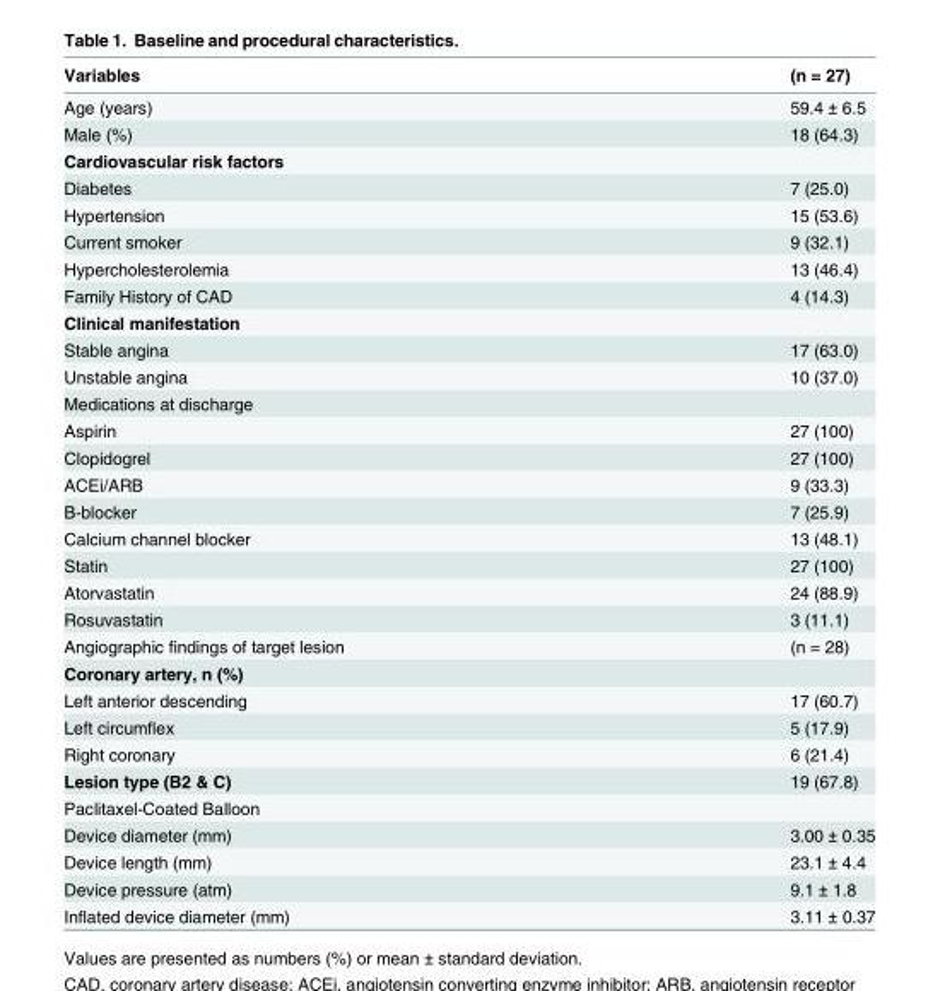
<table><thead><tr><td>Variables</td><td>(n = 27)</td></tr></thead><tbody><tr><td>Age (years)</td><td>59.4 ± 6.5</td></tr><tr><td>Male (%)</td><td>18 (64.3)</td></tr><tr><td colspan="2">Cardiovascular risk factors</td></tr><tr><td>Diabetes</td><td>7 (25.0)</td></tr><tr><td>Hypertension</td><td>15 (53.6)</td></tr><tr><td>Current smoker</td><td>9 (32.1)</td></tr><tr><td>Hypercholesterolemia</td><td>13 (46.4)</td></tr><tr><td>Family History of CAD</td><td>4 (14.3)</td></tr><tr><td colspan="2">Clinical manifestation</td></tr><tr><td>Stable angina</td><td>17 (63.0)</td></tr><tr><td>Unstable angina</td><td>10 (37.0)</td></tr><tr><td colspan="2">Medications at discharge</td></tr><tr><td>Aspirin</td><td>27 (100)</td></tr><tr><td>Clopidogrel</td><td>27 (100)</td></tr><tr><td>ACEi/ARB</td><td>9 (33.3)</td></tr><tr><td>B-blocker</td><td>7 (25.9)</td></tr><tr><td>Calcium channel blocker</td><td>13 (48.1)</td></tr><tr><td>Statin</td><td>27 (100)</td></tr><tr><td>Atorvastatin</td><td>24 (88.9)</td></tr><tr><td>Rosuvastatin</td><td>3 (11.1)</td></tr><tr><td>Angiographic findings of target lesion</td><td>(n = 28)</td></tr><tr><td colspan="2">Coronary artery, n (%)</td></tr><tr><td>Left anterior descending</td><td>17 (60.7)</td></tr><tr><td>Left circumflex</td><td>5 (17.9)</td></tr><tr><td>Right coronary</td><td>6 (21.4)</td></tr><tr><td>Lesion type (B2 &amp; C)</td><td>19 (67.8)</td></tr><tr><td colspan="2">Paclitaxel-Coated Balloon</td></tr><tr><td>Device diameter (mm)</td><td>3.00 ± 0.35</td></tr><tr><td>Device length (mm)</td><td>23.1 ± 4.4</td></tr><tr><td>Device pressure (atm)</td><td>9.1 ± 1.8</td></tr><tr><td>Inflated device diameter (mm)</td><td>3.11 ± 0.37</td></tr></tbody></table>